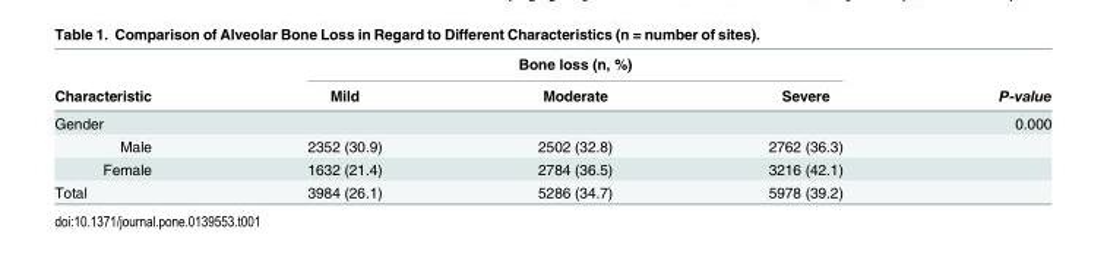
<table><thead><tr><td rowspan="2">Characteristic</td><td colspan="3">Bone loss (n, %)</td><td rowspan="2">P-value</td></tr><tr><td>Mild</td><td>Moderate</td><td>Severe</td></tr></thead><tbody><tr><td>Gender</td><td></td><td></td><td></td><td>0.000</td></tr><tr><td>Male</td><td>2352 (30.9)</td><td>2502 (32.8)</td><td>2762 (36.3)</td><td></td></tr><tr><td>Female</td><td>1632 (21.4)</td><td>2784 (36.5)</td><td>3216 (42.1)</td><td></td></tr><tr><td>Total</td><td>3984 (26.1)</td><td>5286 (34.7)</td><td>5978 (39.2)</td><td></td></tr></tbody></table>